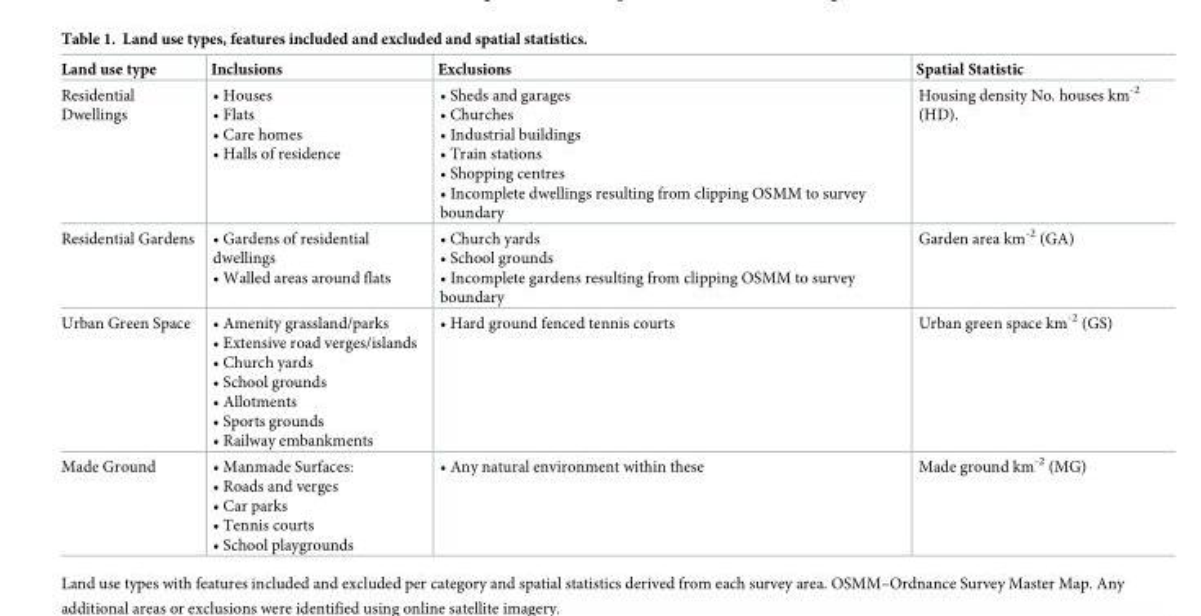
<table><thead><tr><td>Land use type</td><td>Inclusions</td><td>Exclusions</td><td>Spatial Statistic</td></tr></thead><tbody><tr><td>Residential Dwellings</td><td>• Houses • Flats • Care homes • Halls of residence</td><td>• Sheds and garages • Churches • Industrial buildings • Train stations • Shopping centres • Incomplete dwellings resulting from clipping OSMM to survey boundary</td><td>Housing density No. houses km<sup>-2</sup> (HD).</td></tr><tr><td>Residential Gardens</td><td>• Gardens of residential dwellings • Walled areas around flats</td><td>• Church yards • School grounds • Incomplete gardens resulting from clipping OSMM to survey boundary</td><td>Garden area km<sup>-2</sup> (GA)</td></tr><tr><td>Urban Green Space</td><td>• Amenity grassland/parks • Extensive road verges/islands • Church yards • School grounds • Allotments • Sports grounds • Railway embankments</td><td>• Hard ground fenced tennis courts</td><td>Urban green space km<sup>-2</sup> (GS)</td></tr><tr><td>Made Ground</td><td>• Manmade Surfaces: • Roads and verges • Car parks • Tennis courts • School playgrounds</td><td>• Any natural environment within these</td><td>Made ground km<sup>-2</sup> (MG)</td></tr></tbody></table>